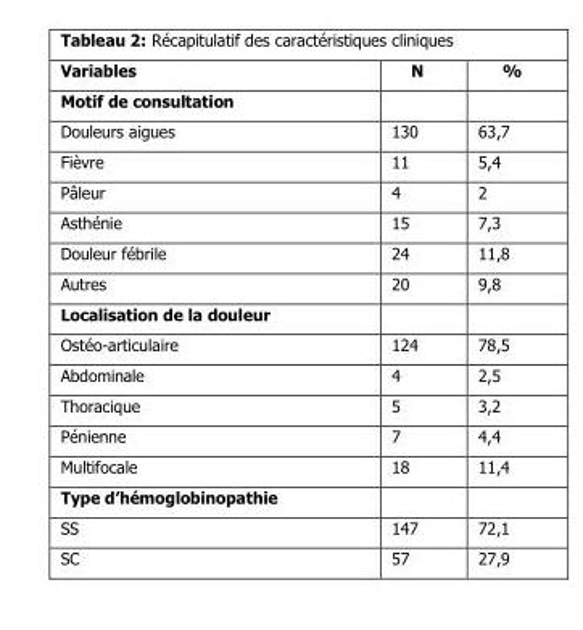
<table><thead><tr><td>Variables</td><td>N</td><td>%</td></tr></thead><tbody><tr><td colspan="3">Motif de consultation</td></tr><tr><td>Douleurs aigues</td><td>130</td><td>63,7</td></tr><tr><td>Fièvre</td><td>11</td><td>5,4</td></tr><tr><td>Pâleur</td><td>4</td><td>2</td></tr><tr><td>Asthénie</td><td>15</td><td>7,3</td></tr><tr><td>Douleur fébrile</td><td>24</td><td>11,8</td></tr><tr><td>Autres</td><td>20</td><td>9,8</td></tr><tr><td colspan="3">Localisation de la douleur</td></tr><tr><td>Ostéo-articulaire</td><td>124</td><td>78,5</td></tr><tr><td>Abdominale</td><td>4</td><td>2,5</td></tr><tr><td>Thoracique</td><td>5</td><td>3,2</td></tr><tr><td>Pénienne</td><td>7</td><td>4,4</td></tr><tr><td>Multifocale</td><td>18</td><td>11,4</td></tr><tr><td colspan="3">Type d’hémoglobinopathie</td></tr><tr><td>SS</td><td>147</td><td>72,1</td></tr><tr><td>SC</td><td>57</td><td>27,9</td></tr></tbody></table>